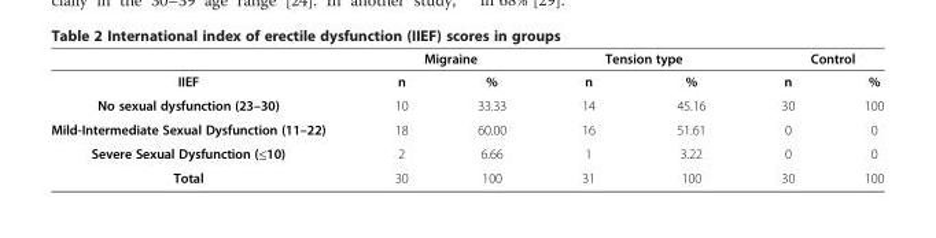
<table><thead><tr><td rowspan="2">IIEF</td><td colspan="2">Migraine</td><td colspan="2">Tension type</td><td colspan="2">Control</td></tr><tr><td>n</td><td>%</td><td>n</td><td>%</td><td>n</td><td>%</td></tr></thead><tbody><tr><td>No sexual dysfunction (23–30)</td><td>10</td><td>33.33</td><td>14</td><td>45.16</td><td>30</td><td>100</td></tr><tr><td>Mild-Intermediate Sexual Dysfunction (11–22)</td><td>18</td><td>60.00</td><td>16</td><td>51.61</td><td>0</td><td>0</td></tr><tr><td>Severe Sexual Dysfunction (≤10)</td><td>2</td><td>6.66</td><td>1</td><td>3.22</td><td>0</td><td>0</td></tr><tr><td>Total</td><td>30</td><td>100</td><td>31</td><td>100</td><td>30</td><td>100</td></tr></tbody></table>